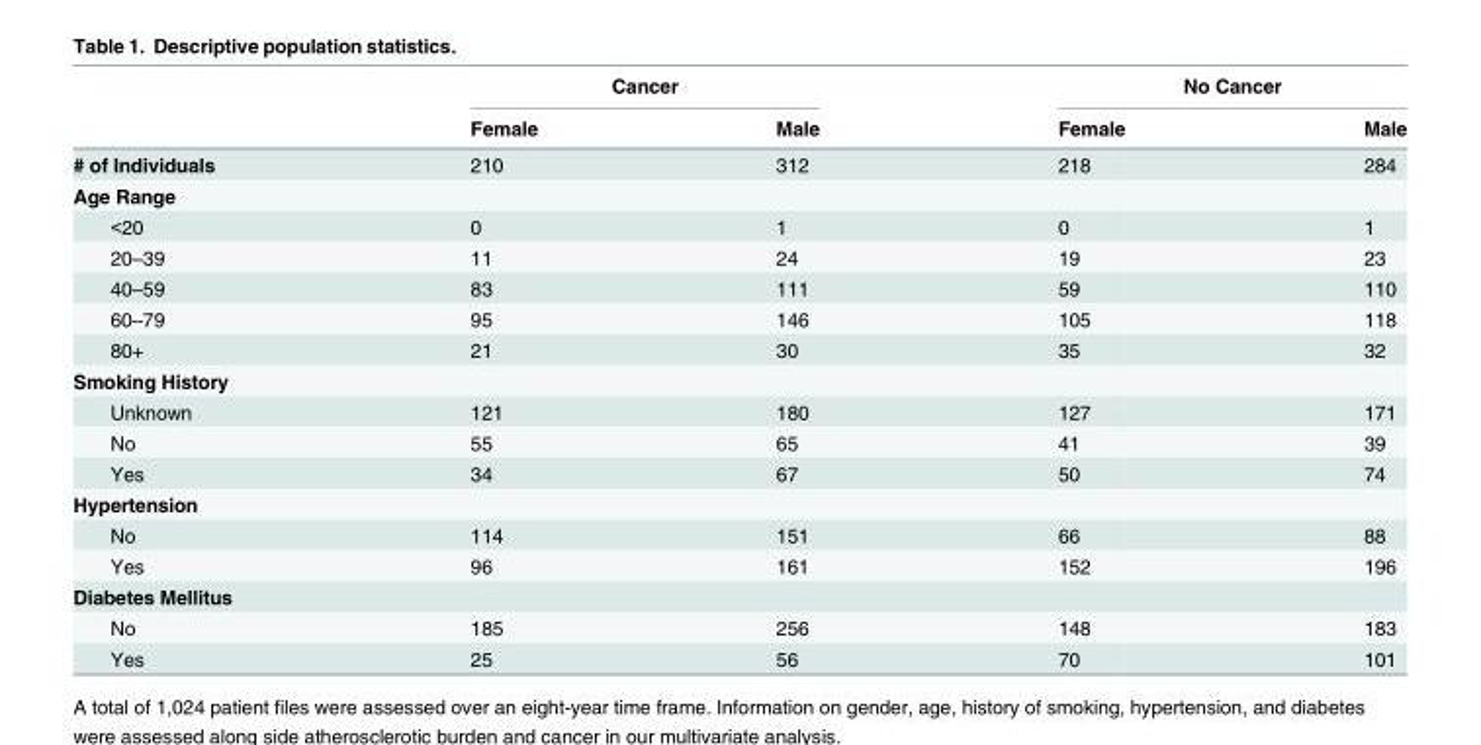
<table><thead><tr><td rowspan="2"></td><td colspan="2">Cancer</td><td colspan="2">No Cancer</td></tr><tr><td>Female</td><td>Male</td><td>Female</td><td>Male</td></tr></thead><tbody><tr><td># of Individuals</td><td>210</td><td>312</td><td>218</td><td>284</td></tr><tr><td colspan="5">Age Range</td></tr><tr><td>&lt;20</td><td>0</td><td>1</td><td>0</td><td>1</td></tr><tr><td>20–39</td><td>11</td><td>24</td><td>19</td><td>23</td></tr><tr><td>40–59</td><td>83</td><td>111</td><td>59</td><td>110</td></tr><tr><td>60–79</td><td>95</td><td>146</td><td>105</td><td>118</td></tr><tr><td>80+</td><td>21</td><td>30</td><td>35</td><td>32</td></tr><tr><td colspan="5">Smoking History</td></tr><tr><td>Unknown</td><td>121</td><td>180</td><td>127</td><td>171</td></tr><tr><td>No</td><td>55</td><td>65</td><td>41</td><td>39</td></tr><tr><td>Yes</td><td>34</td><td>67</td><td>50</td><td>74</td></tr><tr><td colspan="5">Hypertension</td></tr><tr><td>No</td><td>114</td><td>151</td><td>66</td><td>88</td></tr><tr><td>Yes</td><td>96</td><td>161</td><td>152</td><td>196</td></tr><tr><td colspan="5">Diabetes Mellitus</td></tr><tr><td>No</td><td>185</td><td>256</td><td>148</td><td>183</td></tr><tr><td>Yes</td><td>25</td><td>56</td><td>70</td><td>101</td></tr></tbody></table>